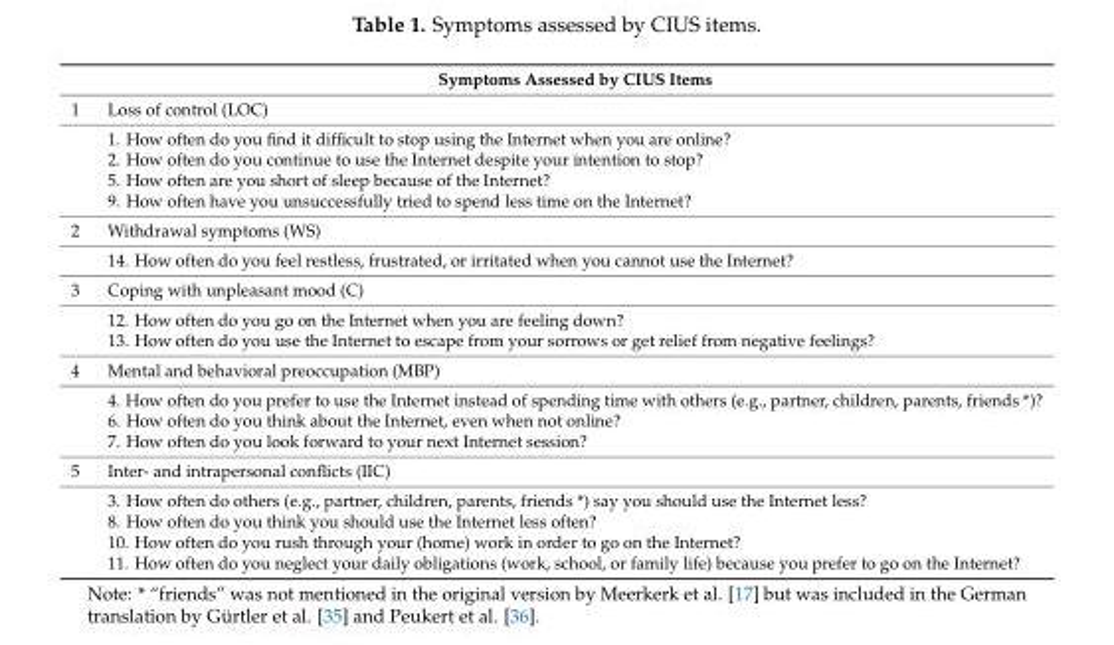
<table><thead><tr><td></td><td>Symptoms Assessed by CIUS Items</td></tr></thead><tbody><tr><td rowspan="5">1</td><td>Loss of control (LOC)</td></tr><tr><td>1. How often do you find it difficult to stop using the Internet when you are online?</td></tr><tr><td>2. How often do you continue to use the Internet despite your intention to stop?</td></tr><tr><td>5. How often are you short of sleep because of the Internet?</td></tr><tr><td>9. How often have you unsuccessfully tried to spend less time on the Internet?</td></tr><tr><td rowspan="2">2</td><td>Withdrawal symptoms (WS)</td></tr><tr><td>14. How often do you feel restless, frustrated, or irritated when you cannot use the Internet?</td></tr><tr><td rowspan="3">3</td><td>Coping with unpleasant mood (C)</td></tr><tr><td>12. How often do you go on the Internet when you are feeling down?</td></tr><tr><td>13. How often do you use the Internet to escape from your sorrows or get relief from negative feelings?</td></tr><tr><td rowspan="4">4</td><td>Mental and behavioral preoccupation (MBP)</td></tr><tr><td>4. How often do you prefer to use the Internet instead of spending time with others (e.g., partner, children, parents, friends *)?</td></tr><tr><td>6. How often do you think about the Internet, even when not online?</td></tr><tr><td>7. How often do you look forward to your next Internet session?</td></tr><tr><td rowspan="5">5</td><td>Inter- and intrapersonal conflicts (IIC)</td></tr><tr><td>3. How often do others (e.g., partner, children, parents, friends *) say you should use the Internet less?</td></tr><tr><td>8. How often do you think you should use the Internet less often?</td></tr><tr><td>10. How often do you rush through your (home) work in order to go on the Internet?</td></tr><tr><td>11. How often do you neglect your daily obligations (work, school, or family life) because you prefer to go on the Internet?</td></tr></tbody></table>